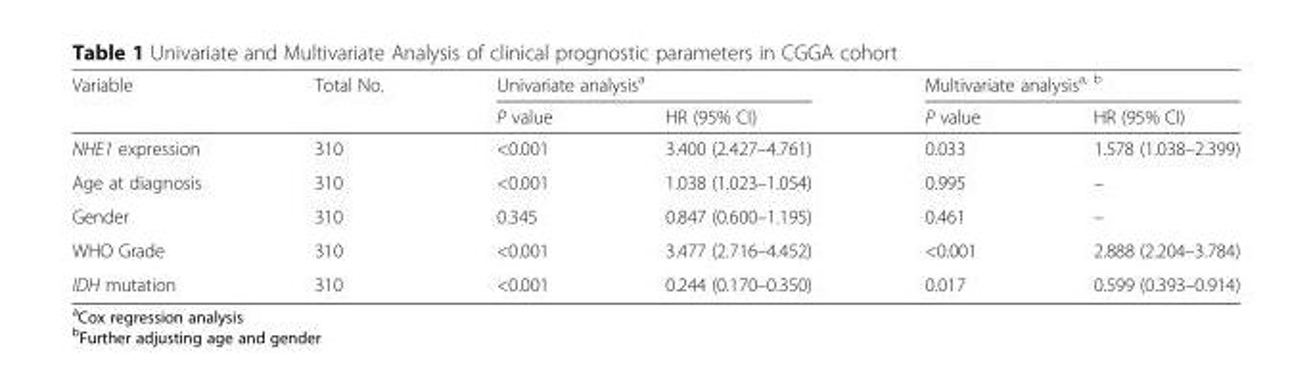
<table><thead><tr><td rowspan="2">Variable</td><td rowspan="2">Total No.</td><td colspan="2">Univariate analysis<sup>a</sup></td><td colspan="2">Multivariate analysis<sup>a, b</sup></td></tr><tr><td>P value</td><td>HR (95% CI)</td><td>P value</td><td>HR (95% CI)</td></tr></thead><tbody><tr><td>NHE1 expression</td><td>310</td><td>&lt;0.001</td><td>3.400 (2.427–4.761)</td><td>0.033</td><td>1.578 (1.038–2.399)</td></tr><tr><td>Age at diagnosis</td><td>310</td><td>&lt;0.001</td><td>1.038 (1.023–1.054)</td><td>0.995</td><td>–</td></tr><tr><td>Gender</td><td>310</td><td>0.345</td><td>0.847 (0.600–1.195)</td><td>0.461</td><td>–</td></tr><tr><td>WHO Grade</td><td>310</td><td>&lt;0.001</td><td>3.477 (2.716–4.452)</td><td>&lt;0.001</td><td>2.888 (2.204–3.784)</td></tr><tr><td>IDH mutation</td><td>310</td><td>&lt;0.001</td><td>0.244 (0.170–0.350)</td><td>0.017</td><td>0.599 (0.393–0.914)</td></tr></tbody></table>